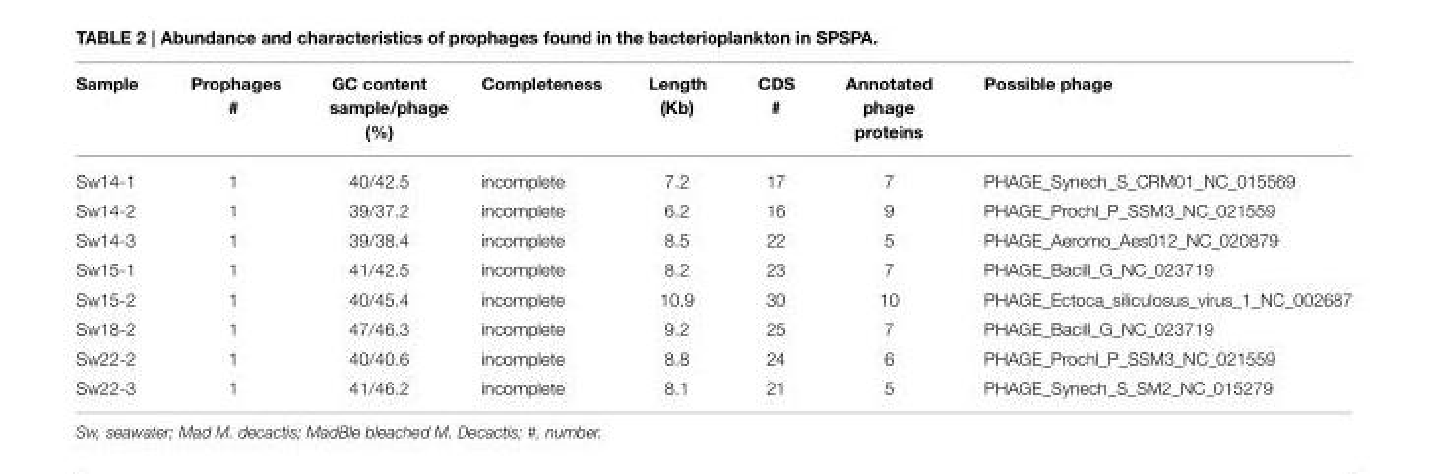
<table><thead><tr><td>Sample</td><td>Prophages #</td><td>GC content sample/phage (%)</td><td>Completeness</td><td>Length (Kb)</td><td>CDS #</td><td>Annotated phage proteins</td><td>Possible phage</td></tr></thead><tbody><tr><td>Sw14-1</td><td>1</td><td>40/42.5</td><td>incomplete</td><td>7.2</td><td>17</td><td>7</td><td>PHAGE_Synech_S_CRM01_NC_015569</td></tr><tr><td>Sw14-2</td><td>1</td><td>39/37.2</td><td>incomplete</td><td>6.2</td><td>16</td><td>9</td><td>PHAGE_Prochl_P_SSM3_NC_021559</td></tr><tr><td>Sw14-3</td><td>1</td><td>39/38.4</td><td>incomplete</td><td>8.5</td><td>22</td><td>5</td><td>PHAGE_Aeromo_Aes012_NC_020879</td></tr><tr><td>Sw15-1</td><td>1</td><td>41/42.5</td><td>incomplete</td><td>8.2</td><td>23</td><td>7</td><td>PHAGE_Bacill_G_NC_023719</td></tr><tr><td>Sw15-2</td><td>1</td><td>40/45.4</td><td>incomplete</td><td>10.9</td><td>30</td><td>10</td><td>PHAGE_Ectoca_siliculosus_virus_1_NC_002687</td></tr><tr><td>Sw18-2</td><td>1</td><td>47/46.3</td><td>incomplete</td><td>9.2</td><td>25</td><td>7</td><td>PHAGE_Bacill_G_NC_023719</td></tr><tr><td>Sw22-2</td><td>1</td><td>40/40.6</td><td>incomplete</td><td>8.8</td><td>24</td><td>6</td><td>PHAGE_Prochl_P_SSM3_NC_021559</td></tr><tr><td>Sw22-3</td><td>1</td><td>41/46.2</td><td>incomplete</td><td>8.1</td><td>21</td><td>5</td><td>PHAGE_Synech_S_SM2_NC_015279</td></tr></tbody></table>